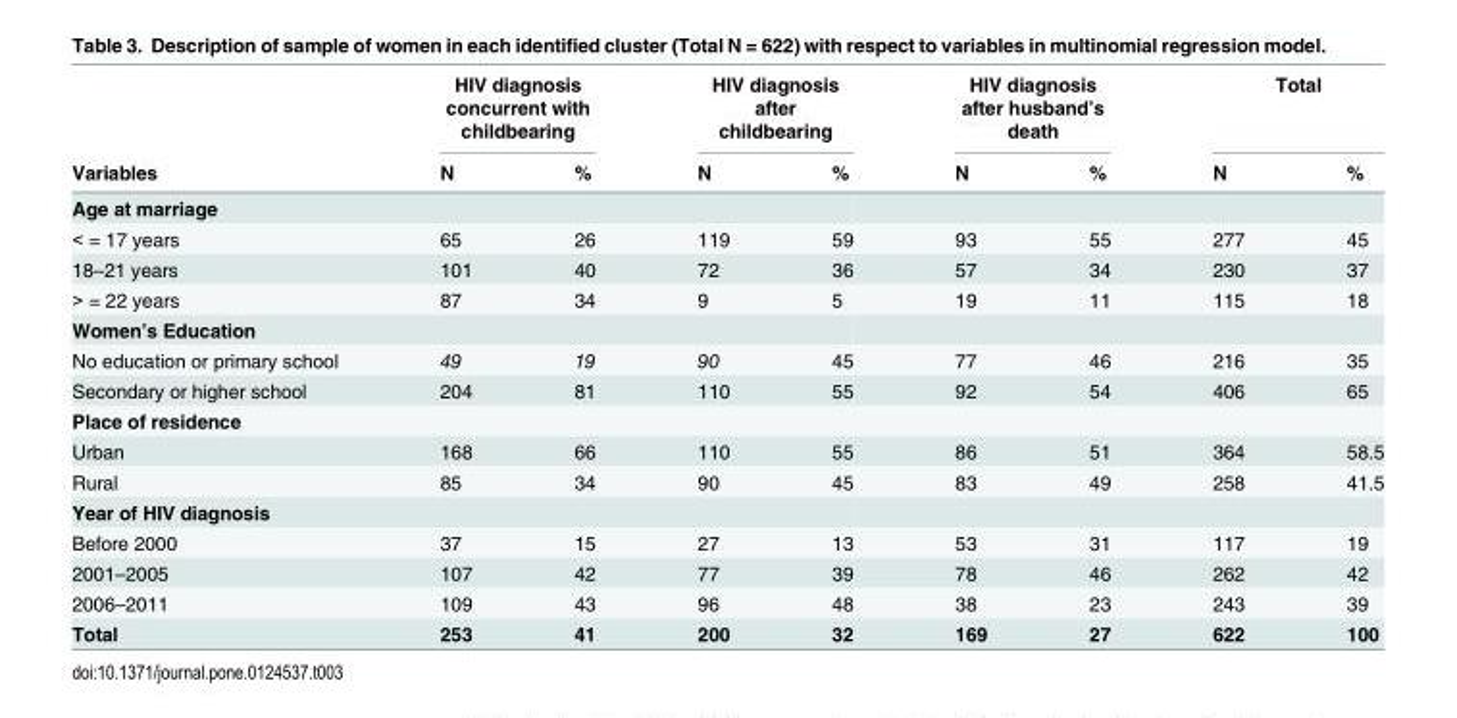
<table><thead><tr><td rowspan="2">Variables</td><td colspan="2">HIV diagnosis concurrent with childbearing</td><td colspan="2">HIV diagnosis after childbearing</td><td colspan="2">HIV diagnosis after husband’s death</td><td colspan="2">Total</td></tr><tr><td>N</td><td>%</td><td>N</td><td>%</td><td>N</td><td>%</td><td>N</td><td>%</td></tr></thead><tbody><tr><td colspan="9">Age at marriage</td></tr><tr><td>&lt; = 17 years</td><td>65</td><td>26</td><td>119</td><td>59</td><td>93</td><td>55</td><td>277</td><td>45</td></tr><tr><td>18–21 years</td><td>101</td><td>40</td><td>72</td><td>36</td><td>57</td><td>34</td><td>230</td><td>37</td></tr><tr><td>&gt; = 22 years</td><td>87</td><td>34</td><td>9</td><td>5</td><td>19</td><td>11</td><td>115</td><td>18</td></tr><tr><td colspan="9">Women’s Education</td></tr><tr><td>No education or primary school</td><td>49</td><td>19</td><td>90</td><td>45</td><td>77</td><td>46</td><td>216</td><td>35</td></tr><tr><td>Secondary or higher school</td><td>204</td><td>81</td><td>110</td><td>55</td><td>92</td><td>54</td><td>406</td><td>65</td></tr><tr><td colspan="9">Place of residence</td></tr><tr><td>Urban</td><td>168</td><td>66</td><td>110</td><td>55</td><td>86</td><td>51</td><td>364</td><td>58.5</td></tr><tr><td>Rural</td><td>85</td><td>34</td><td>90</td><td>45</td><td>83</td><td>49</td><td>258</td><td>41.5</td></tr><tr><td colspan="9">Year of HIV diagnosis</td></tr><tr><td>Before 2000</td><td>37</td><td>15</td><td>27</td><td>13</td><td>53</td><td>31</td><td>117</td><td>19</td></tr><tr><td>2001–2005</td><td>107</td><td>42</td><td>77</td><td>39</td><td>78</td><td>46</td><td>262</td><td>42</td></tr><tr><td>2006–2011</td><td>109</td><td>43</td><td>96</td><td>48</td><td>38</td><td>23</td><td>243</td><td>39</td></tr><tr><td>Total</td><td>253</td><td>41</td><td>200</td><td>32</td><td>169</td><td>27</td><td>622</td><td>100</td></tr></tbody></table>